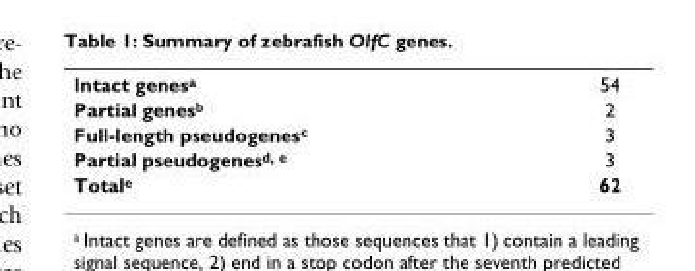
<table><tbody><tr><td>Intact genes<sup>a</sup></td><td>54</td></tr><tr><td>Partial genes<sup>b</sup></td><td>2</td></tr><tr><td>Full-length pseudogenes<sup>c</sup></td><td>3</td></tr><tr><td>Partial pseudogenes<sup>d, e</sup></td><td>3</td></tr><tr><td>Total<sup>e</sup></td><td>62</td></tr></tbody></table>